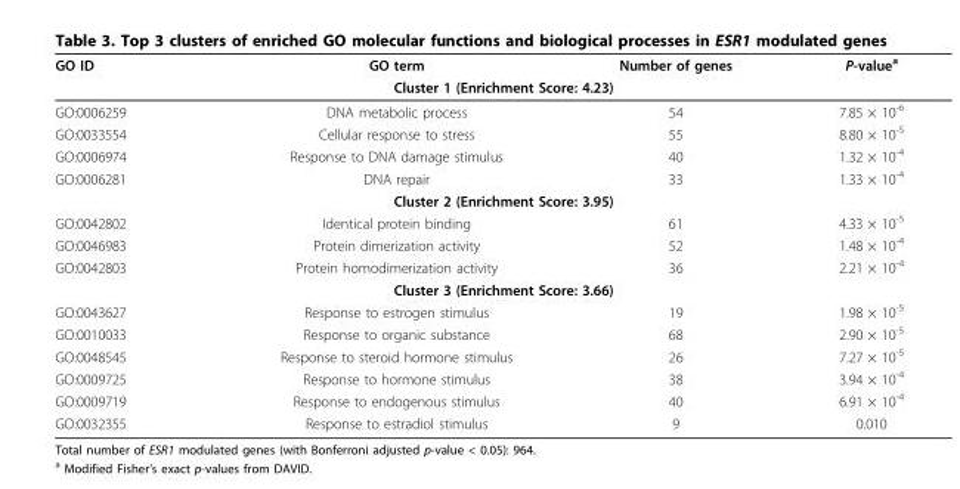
<table><tbody><tr><td>GO ID</td><td>GO term</td><td>Number of genes</td><td>P-value<sup>a</sup></td></tr><tr><td colspan="4">Cluster 1 (Enrichment Score: 4.23)</td></tr><tr><td>GO:0006259</td><td>DNA metabolic process</td><td>54</td><td>7.85 × 10<sup>-6</sup></td></tr><tr><td>GO:0033554</td><td>Cellular response to stress</td><td>55</td><td>8.80 × 10<sup>-5</sup></td></tr><tr><td>GO:0006974</td><td>Response to DNA damage stimulus</td><td>40</td><td>1.32 × 10<sup>-4</sup></td></tr><tr><td>GO:0006281</td><td>DNA repair</td><td>33</td><td>1.33 × 10<sup>-4</sup></td></tr><tr><td colspan="4">Cluster 2 (Enrichment Score: 3.95)</td></tr><tr><td>GO:0042802</td><td>Identical protein binding</td><td>61</td><td>4.33 × 10<sup>-5</sup></td></tr><tr><td>GO:0046983</td><td>Protein dimerization activity</td><td>52</td><td>1.48 × 10<sup>-4</sup></td></tr><tr><td>GO:0042803</td><td>Protein homodimerization activity</td><td>36</td><td>2.21 × 10<sup>-4</sup></td></tr><tr><td colspan="4">Cluster 3 (Enrichment Score: 3.66)</td></tr><tr><td>GO:0043627</td><td>Response to estrogen stimulus</td><td>19</td><td>1.98 × 10<sup>-5</sup></td></tr><tr><td>GO:0010033</td><td>Response to organic substance</td><td>68</td><td>2.90 × 10<sup>-5</sup></td></tr><tr><td>GO:0048545</td><td>Response to steroid hormone stimulus</td><td>26</td><td>7.27 × 10<sup>-5</sup></td></tr><tr><td>GO:0009725</td><td>Response to hormone stimulus</td><td>38</td><td>3.94 × 10<sup>-4</sup></td></tr><tr><td>GO:0009719</td><td>Response to endogenous stimulus</td><td>40</td><td>6.91 × 10<sup>-4</sup></td></tr><tr><td>GO:0032355</td><td>Response to estradiol stimulus</td><td>9</td><td>0.010</td></tr></tbody></table>